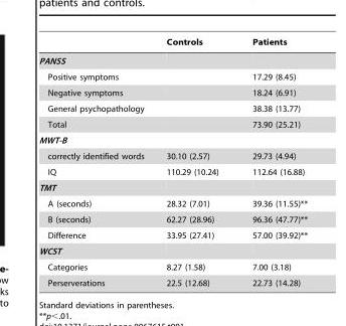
<table><thead><tr><td></td><td>Controls</td><td>Patients</td></tr></thead><tbody><tr><td colspan="3">PANSS</td></tr><tr><td>Positive symptoms</td><td></td><td>17.29 (8.45)</td></tr><tr><td>Negative symptoms</td><td></td><td>18.24 (6.91)</td></tr><tr><td>General psychopathology</td><td></td><td>38.38 (13.77)</td></tr><tr><td>Total</td><td></td><td>73.90 (25.21)</td></tr><tr><td colspan="3">MWT-B</td></tr><tr><td>correctly identified words</td><td>30.10 (2.57)</td><td>29.73 (4.94)</td></tr><tr><td>IQ</td><td>110.29 (10.24)</td><td>112.64 (16.88)</td></tr><tr><td colspan="3">TMT</td></tr><tr><td>A (seconds)</td><td>28.32 (7.01)</td><td>39.36 (11.55)**</td></tr><tr><td>B (seconds)</td><td>62.27 (28.96)</td><td>96.36 (47.77)**</td></tr><tr><td>Difference</td><td>33.95 (27.41)</td><td>57.00 (39.92)**</td></tr><tr><td colspan="3">WCST</td></tr><tr><td>Categories</td><td>8.27 (1.58)</td><td>7.00 (3.18)</td></tr><tr><td>Perserverations</td><td>22.5 (12.68)</td><td>22.73 (14.28)</td></tr></tbody></table>